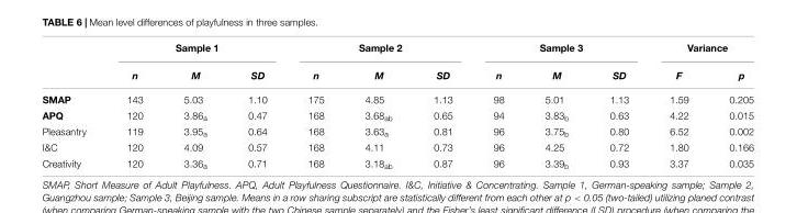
<table><thead><tr><td rowspan="2"></td><td colspan="3">Sample 1</td><td colspan="3">Sample 2</td><td colspan="3">Sample 3</td><td colspan="2">Variance</td></tr><tr><td>n</td><td>M</td><td>SD</td><td>n</td><td>M</td><td>SD</td><td>n</td><td>M</td><td>SD</td><td>F</td><td>p</td></tr></thead><tbody><tr><td>SMAP</td><td>143</td><td>5.03</td><td>1.10</td><td>175</td><td>4.85</td><td>1.13</td><td>98</td><td>5.01</td><td>1.13</td><td>1.59</td><td>0.205</td></tr><tr><td>APQ</td><td>120</td><td>3.86<sub>a</sub></td><td>0.47</td><td>168</td><td>3.68<sub>ab</sub></td><td>0.65</td><td>94</td><td>3.83<sub>b</sub></td><td>0.63</td><td>4.22</td><td>0.015</td></tr><tr><td>Pleasantry</td><td>119</td><td>3.95<sub>a</sub></td><td>0.64</td><td>168</td><td>3.63<sub>a</sub></td><td>0.81</td><td>96</td><td>3.75<sub>b</sub></td><td>0.80</td><td>6.52</td><td>0.002</td></tr><tr><td>I&amp;C</td><td>120</td><td>4.09</td><td>0.57</td><td>168</td><td>4.11</td><td>0.73</td><td>96</td><td>4.25</td><td>0.72</td><td>1.80</td><td>0.166</td></tr><tr><td>Creativity</td><td>120</td><td>3.36<sub>a</sub></td><td>0.71</td><td>168</td><td>3.18<sub>ab</sub></td><td>0.87</td><td>96</td><td>3.39<sub>b</sub></td><td>0.93</td><td>3.37</td><td>0.035</td></tr></tbody></table>